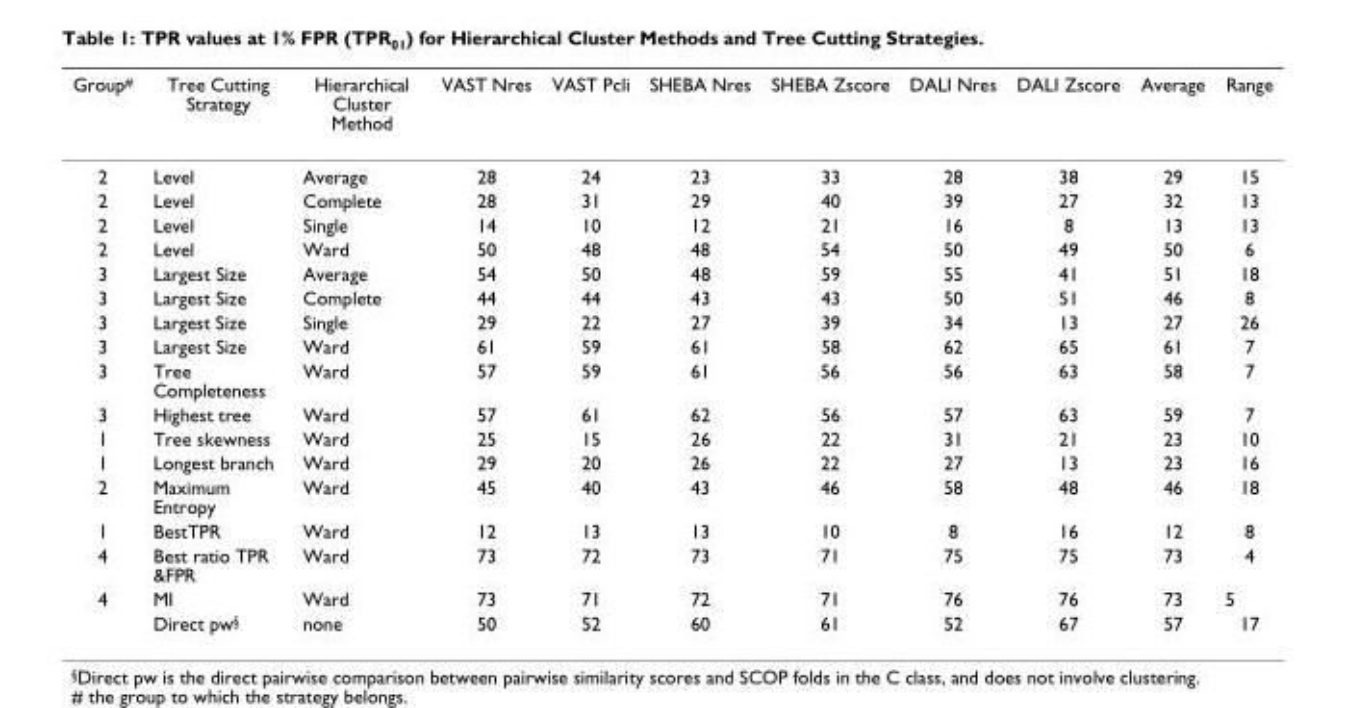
<table><thead><tr><td>Group<sup>#</sup></td><td>Tree Cutting Strategy</td><td>Hierarchical Cluster Method</td><td>VAST Nres</td><td>VAST Pcli</td><td>SHEBA Nres</td><td>SHEBA Zscore</td><td>DALI Nres</td><td>DALI Zscore</td><td>Average</td><td>Range</td></tr></thead><tbody><tr><td>2</td><td>Level</td><td>Average</td><td>28</td><td>24</td><td>23</td><td>33</td><td>28</td><td>38</td><td>29</td><td>15</td></tr><tr><td>2</td><td>Level</td><td>Complete</td><td>28</td><td>31</td><td>29</td><td>40</td><td>39</td><td>27</td><td>32</td><td>13</td></tr><tr><td>2</td><td>Level</td><td>Single</td><td>14</td><td>10</td><td>12</td><td>21</td><td>16</td><td>8</td><td>13</td><td>13</td></tr><tr><td>2</td><td>Level</td><td>Ward</td><td>50</td><td>48</td><td>48</td><td>54</td><td>50</td><td>49</td><td>50</td><td>6</td></tr><tr><td>3</td><td>Largest Size</td><td>Average</td><td>54</td><td>50</td><td>48</td><td>59</td><td>55</td><td>41</td><td>51</td><td>18</td></tr><tr><td>3</td><td>Largest Size</td><td>Complete</td><td>44</td><td>44</td><td>43</td><td>43</td><td>50</td><td>51</td><td>46</td><td>8</td></tr><tr><td>3</td><td>Largest Size</td><td>Single</td><td>29</td><td>22</td><td>27</td><td>39</td><td>34</td><td>13</td><td>27</td><td>26</td></tr><tr><td>3</td><td>Largest Size</td><td>Ward</td><td>61</td><td>59</td><td>61</td><td>58</td><td>62</td><td>65</td><td>61</td><td>7</td></tr><tr><td>3</td><td>Tree Completeness</td><td>Ward</td><td>57</td><td>59</td><td>61</td><td>56</td><td>56</td><td>63</td><td>58</td><td>7</td></tr><tr><td>3</td><td>Highest tree</td><td>Ward</td><td>57</td><td>61</td><td>62</td><td>56</td><td>57</td><td>63</td><td>59</td><td>7</td></tr><tr><td>1</td><td>Tree skewness</td><td>Ward</td><td>25</td><td>15</td><td>26</td><td>22</td><td>31</td><td>21</td><td>23</td><td>10</td></tr><tr><td>1</td><td>Longest branch</td><td>Ward</td><td>29</td><td>20</td><td>26</td><td>22</td><td>27</td><td>13</td><td>23</td><td>16</td></tr><tr><td>2</td><td>Maximum Entropy</td><td>Ward</td><td>45</td><td>40</td><td>43</td><td>46</td><td>58</td><td>48</td><td>46</td><td>18</td></tr><tr><td>1</td><td>BestTPR</td><td>Ward</td><td>12</td><td>13</td><td>13</td><td>10</td><td>8</td><td>16</td><td>12</td><td>8</td></tr><tr><td>4</td><td>Best ratio TPR &amp;FPR</td><td>Ward</td><td>73</td><td>72</td><td>73</td><td>71</td><td>75</td><td>75</td><td>73</td><td>4</td></tr><tr><td rowspan="2">4</td><td>MI</td><td>Ward</td><td>73</td><td>71</td><td>72</td><td>71</td><td>76</td><td>76</td><td>73</td><td>5</td></tr><tr><td>Direct pw<sup>§</sup></td><td>none</td><td>50</td><td>52</td><td>60</td><td>61</td><td>52</td><td>67</td><td>57</td><td>17</td></tr></tbody></table>